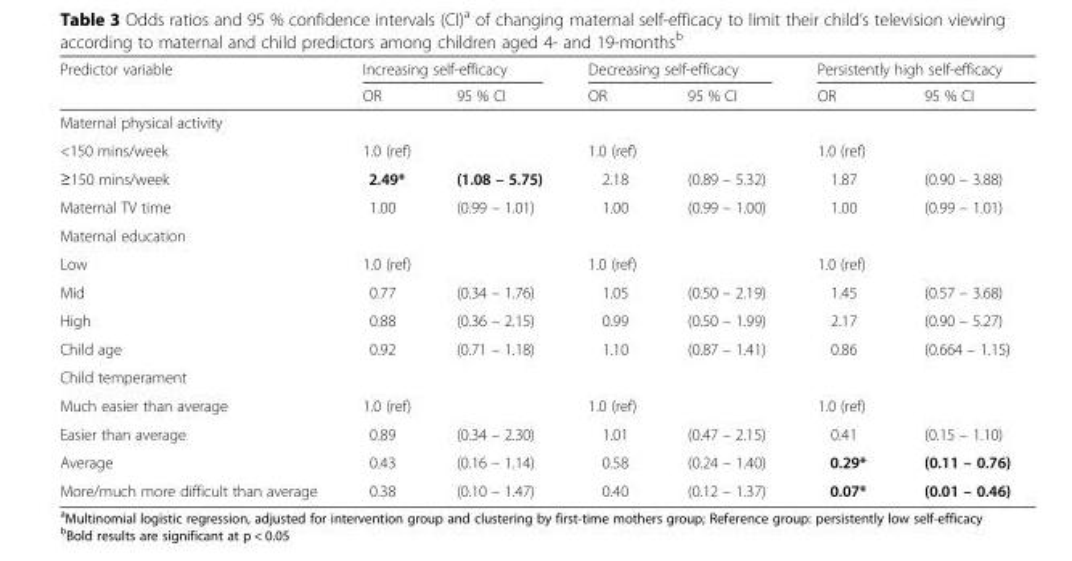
<table><thead><tr><td rowspan="2">Predictor variable</td><td colspan="2">Increasing self-efficacy</td><td colspan="2">Decreasing self-efficacy</td><td colspan="2">Persistently high self-efficacy</td></tr><tr><td>OR</td><td>95 % CI</td><td>OR</td><td>95 % CI</td><td>OR</td><td>95 % CI</td></tr></thead><tbody><tr><td colspan="7">Maternal physical activity</td></tr><tr><td>&lt;150 mins/week</td><td>1.0 (ref)</td><td></td><td>1.0 (ref)</td><td></td><td colspan="2">1.0 (ref)</td></tr><tr><td>≥150 mins/week</td><td>2.49*</td><td>(1.08 – 5.75)</td><td>2.18</td><td>(0.89 – 5.32)</td><td>1.87</td><td>(0.90 – 3.88)</td></tr><tr><td>Maternal TV time</td><td>1.00</td><td>(0.99 – 1.01)</td><td>1.00</td><td>(0.99 – 1.00)</td><td>1.00</td><td>(0.99 – 1.01)</td></tr><tr><td colspan="7">Maternal education</td></tr><tr><td>Low</td><td>1.0 (ref)</td><td></td><td>1.0 (ref)</td><td></td><td colspan="2">1.0 (ref)</td></tr><tr><td>Mid</td><td>0.77</td><td>(0.34 – 1.76)</td><td>1.05</td><td>(0.50 – 2.19)</td><td>1.45</td><td>(0.57 – 3.68)</td></tr><tr><td>High</td><td>0.88</td><td>(0.36 – 2.15)</td><td>0.99</td><td>(0.50 – 1.99)</td><td>2.17</td><td>(0.90 – 5.27)</td></tr><tr><td>Child age</td><td>0.92</td><td>(0.71 – 1.18)</td><td>1.10</td><td>(0.87 – 1.41)</td><td>0.86</td><td>(0.664 – 1.15)</td></tr><tr><td colspan="7">Child temperament</td></tr><tr><td>Much easier than average</td><td colspan="2">1.0 (ref)</td><td colspan="2">1.0 (ref)</td><td colspan="2">1.0 (ref)</td></tr><tr><td>Easier than average</td><td>0.89</td><td>(0.34 – 2.30)</td><td>1.01</td><td>(0.47 – 2.15)</td><td>0.41</td><td>(0.15 – 1.10)</td></tr><tr><td>Average</td><td>0.43</td><td>(0.16 – 1.14)</td><td>0.58</td><td>(0.24 – 1.40)</td><td>0.29*</td><td>(0.11 – 0.76)</td></tr><tr><td>More/much more difficult than average</td><td>0.38</td><td>(0.10 – 1.47)</td><td>0.40</td><td>(0.12 – 1.37)</td><td>0.07*</td><td>(0.01 – 0.46)</td></tr></tbody></table>